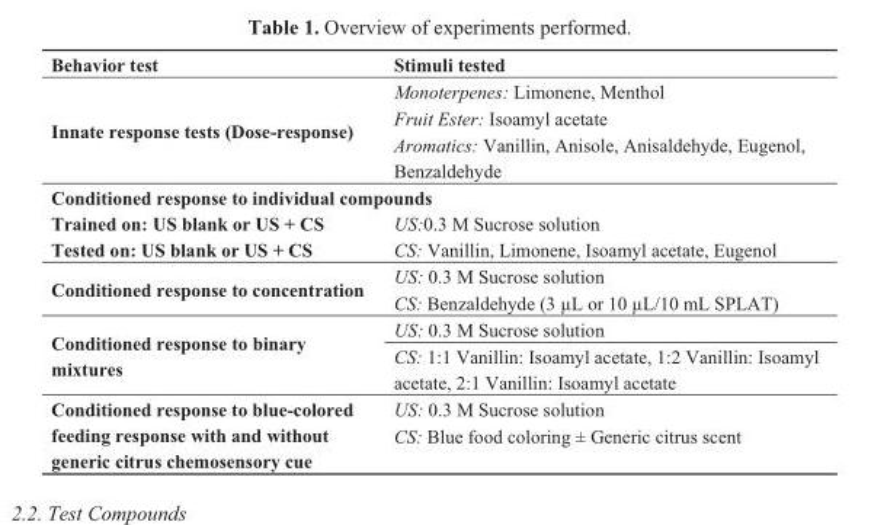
<table><thead><tr><td>Behavior test</td><td>Stimuli tested</td></tr></thead><tbody><tr><td rowspan="3">Innate response tests (Dose-response)</td><td>Monoterpenes: Limonene, Menthol</td></tr><tr><td>Fruit Ester: Isoamyl acetate</td></tr><tr><td>Aromatics: Vanillin, Anisole, Anisaldehyde, Eugenol, Benzaldehyde</td></tr><tr><td colspan="2">Conditioned response to individual compounds</td></tr><tr><td>Trained on: US blank or US + CS</td><td>US:0.3 M Sucrose solution</td></tr><tr><td>Tested on: US blank or US + CS</td><td>CS: Vanillin, Limonene, Isoamyl acetate, Eugenol</td></tr><tr><td rowspan="2">Conditioned response to concentration</td><td>US: 0.3 M Sucrose solution</td></tr><tr><td>CS: Benzaldehyde (3 μL or 10 μL/10 mL SPLAT)</td></tr><tr><td rowspan="2">Conditioned response to binary mixtures</td><td>US: 0.3 M Sucrose solution</td></tr><tr><td>CS: 1:1 Vanillin: Isoamyl acetate, 1:2 Vanillin: Isoamyl acetate, 2:1 Vanillin: Isoamyl acetate</td></tr><tr><td rowspan="2">Conditioned response to blue-colored feeding response with and without generic citrus chemosensory cue</td><td>US: 0.3 M Sucrose solution</td></tr><tr><td>CS: Blue food coloring ± Generic citrus scent</td></tr></tbody></table>